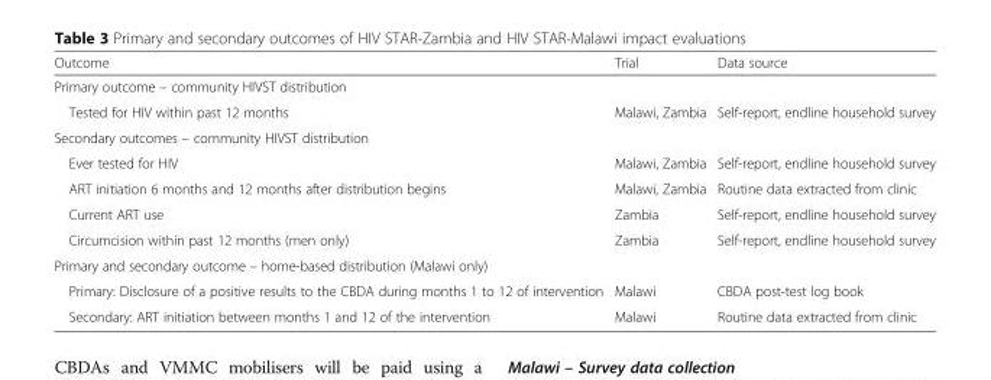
<table><thead><tr><td>Outcome</td><td>Trial</td><td>Data source</td></tr></thead><tbody><tr><td colspan="3">Primary outcome – community HIVST distribution</td></tr><tr><td>Tested for HIV within past 12 months</td><td>Malawi, Zambia</td><td>Self-report, endline household survey</td></tr><tr><td colspan="3">Secondary outcomes – community HIVST distribution</td></tr><tr><td>Ever tested for HIV</td><td>Malawi, Zambia</td><td>Self-report, endline household survey</td></tr><tr><td>ART initiation 6 months and 12 months after distribution begins</td><td>Malawi, Zambia</td><td>Routine data extracted from clinic</td></tr><tr><td>Current ART use</td><td>Zambia</td><td>Self-report, endline household survey</td></tr><tr><td>Circumcision within past 12 months (men only)</td><td>Zambia</td><td>Self-report, endline household survey</td></tr><tr><td colspan="3">Primary and secondary outcome – home-based distribution (Malawi only)</td></tr><tr><td>Primary: Disclosure of a positive results to the CBDA during months 1 to 12 of intervention</td><td>Malawi</td><td>CBDA post-test log book</td></tr><tr><td>Secondary: ART initiation between months 1 and 12 of the intervention</td><td>Malawi</td><td>Routine data extracted from clinic</td></tr></tbody></table>